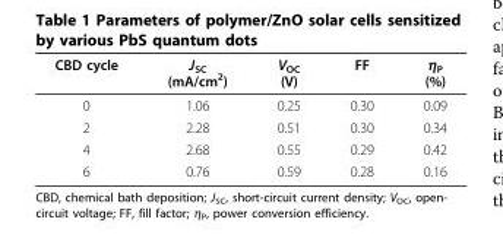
<table><thead><tr><td>CBD cycle</td><td>J<sub>SC</sub> (mA/cm<sup>2</sup>)</td><td>V<sub>OC</sub> (V)</td><td>FF</td><td>η<sub>P</sub> (%)</td></tr></thead><tbody><tr><td>0</td><td>1.06</td><td>0.25</td><td>0.30</td><td>0.09</td></tr><tr><td>2</td><td>2.28</td><td>0.51</td><td>0.30</td><td>0.34</td></tr><tr><td>4</td><td>2.68</td><td>0.55</td><td>0.29</td><td>0.42</td></tr><tr><td>6</td><td>0.76</td><td>0.59</td><td>0.28</td><td>0.16</td></tr></tbody></table>